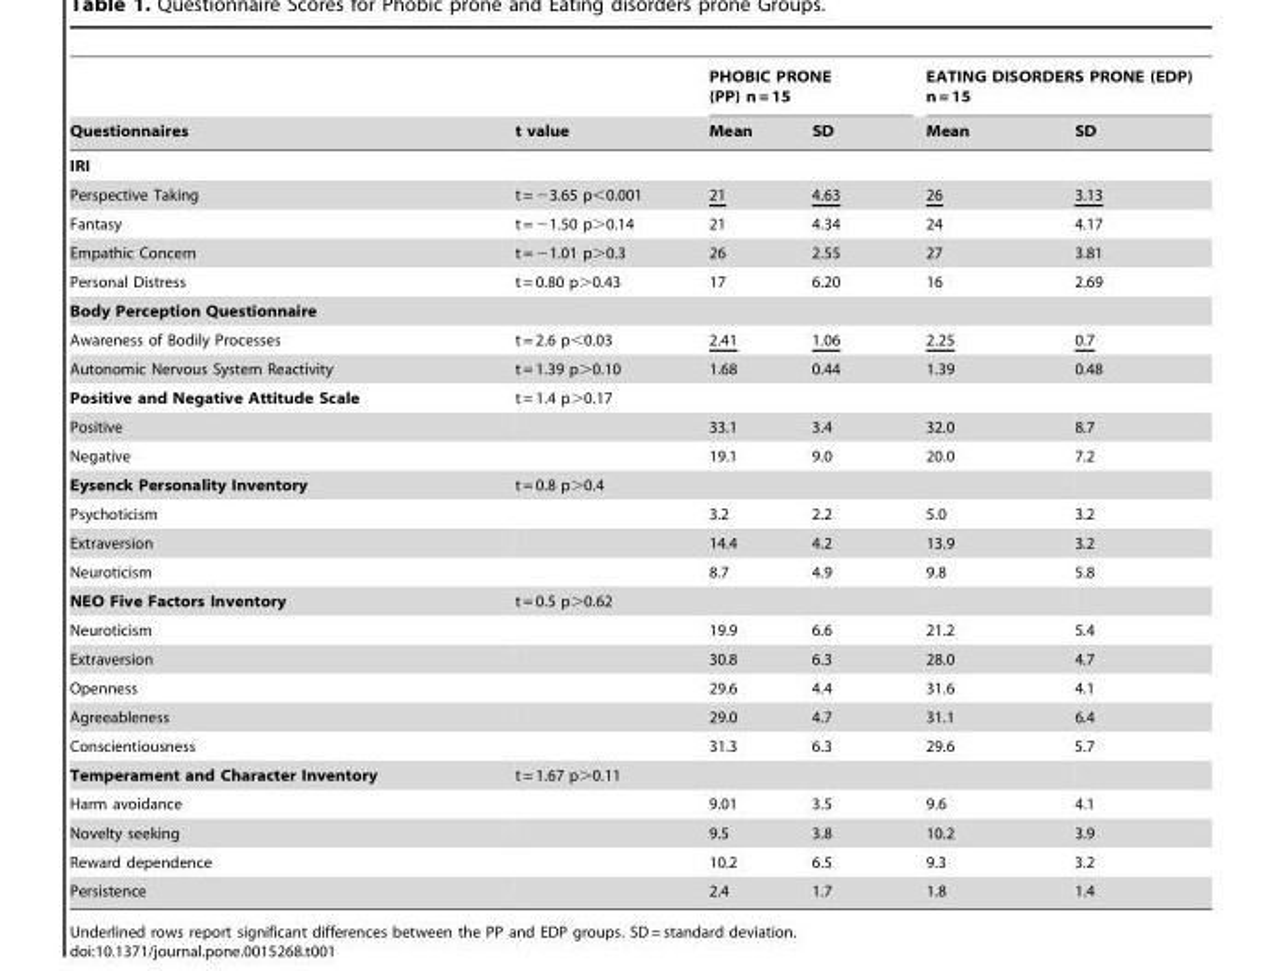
<table><thead><tr><td rowspan="2">Questionnaires</td><td rowspan="2">t value</td><td colspan="2">PHOBIC PRONE (PP) n = 15</td><td colspan="2">EATING DISORDERS PRONE (EDP) n = 15</td></tr><tr><td>Mean</td><td>SD</td><td>Mean</td><td>SD</td></tr></thead><tbody><tr><td colspan="6">IRI</td></tr><tr><td>Perspective Taking</td><td>t = −3.65 p&lt;0.001</td><td>21</td><td>4.63</td><td>26</td><td>3.13</td></tr><tr><td>Fantasy</td><td>t = −1.50 p&gt;0.14</td><td>21</td><td>4.34</td><td>24</td><td>4.17</td></tr><tr><td>Empathic Concern</td><td>t = −1.01 p&gt;0.3</td><td>26</td><td>2.55</td><td>27</td><td>3.81</td></tr><tr><td>Personal Distress</td><td>t = 0.80 p&gt;0.43</td><td>17</td><td>6.20</td><td>16</td><td>2.69</td></tr><tr><td colspan="6">Body Perception Questionnaire</td></tr><tr><td>Awareness of Bodily Processes</td><td>t = 2.6 p&lt;0.03</td><td>2.41</td><td>1.06</td><td>2.25</td><td>0.7</td></tr><tr><td>Autonomic Nervous System Reactivity</td><td>t = 1.39 p&gt;0.10</td><td>1.68</td><td>0.44</td><td>1.39</td><td>0.48</td></tr><tr><td>Positive and Negative Attitude Scale</td><td>t = 1.4 p&gt;0.17</td><td></td><td></td><td></td><td></td></tr><tr><td>Positive</td><td></td><td>33.1</td><td>3.4</td><td>32.0</td><td>8.7</td></tr><tr><td>Negative</td><td></td><td>19.1</td><td>9.0</td><td>20.0</td><td>7.2</td></tr><tr><td>Eysenck Personality Inventory</td><td>t = 0.8 p&gt;0.4</td><td></td><td></td><td></td><td></td></tr><tr><td>Psychoticism</td><td></td><td>3.2</td><td>2.2</td><td>5.0</td><td>3.2</td></tr><tr><td>Extraversion</td><td></td><td>14.4</td><td>4.2</td><td>13.9</td><td>3.2</td></tr><tr><td>Neuroticism</td><td></td><td>8.7</td><td>4.9</td><td>9.8</td><td>5.8</td></tr><tr><td>NEO Five Factors Inventory</td><td>t = 0.5 p&gt;0.62</td><td></td><td></td><td></td><td></td></tr><tr><td>Neuroticism</td><td></td><td>19.9</td><td>6.6</td><td>21.2</td><td>5.4</td></tr><tr><td>Extraversion</td><td></td><td>30.8</td><td>6.3</td><td>28.0</td><td>4.7</td></tr><tr><td>Openness</td><td></td><td>29.6</td><td>4.4</td><td>31.6</td><td>4.1</td></tr><tr><td>Agreeableness</td><td></td><td>29.0</td><td>4.7</td><td>31.1</td><td>6.4</td></tr><tr><td>Conscientiousness</td><td></td><td>31.3</td><td>6.3</td><td>29.6</td><td>5.7</td></tr><tr><td>Temperament and Character Inventory</td><td>t = 1.67 p&gt;0.11</td><td></td><td></td><td></td><td></td></tr><tr><td>Harm avoidance</td><td></td><td>9.01</td><td>3.5</td><td>9.6</td><td>4.1</td></tr><tr><td>Novelty seeking</td><td></td><td>9.5</td><td>3.8</td><td>10.2</td><td>3.9</td></tr><tr><td>Reward dependence</td><td></td><td>10.2</td><td>6.5</td><td>9.3</td><td>3.2</td></tr><tr><td>Persistence</td><td></td><td>2.4</td><td>1.7</td><td>1.8</td><td>1.4</td></tr></tbody></table>